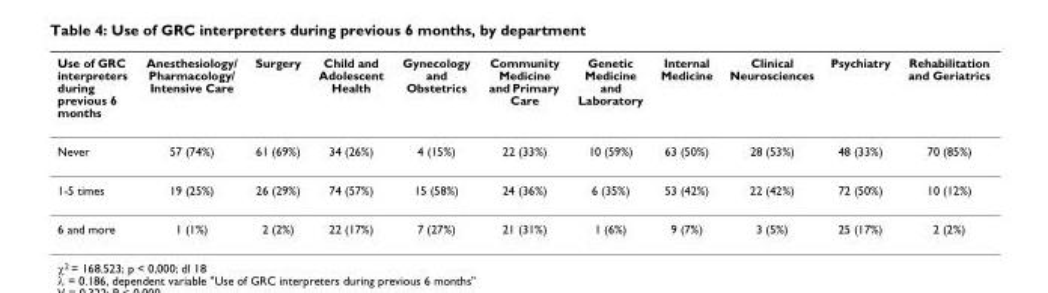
<table><thead><tr><td>Use of GRC interpreters during previous 6 months</td><td>Anesthesiology/ Pharmacology/ Intensive Care</td><td>Surgery</td><td>Child and Adolescent Health</td><td>Gynecology and Obstetrics</td><td>Community Medicine and Primary Care</td><td>Genetic Medicine and Laboratory</td><td>Internal Medicine</td><td>Clinical Neurosciences</td><td>Psychiatry</td><td>Rehabilitation and Geriatrics</td></tr></thead><tbody><tr><td>Never</td><td>57 (74%)</td><td>61 (69%)</td><td>34 (26%)</td><td>4 (15%)</td><td>22 (33%)</td><td>10 (59%)</td><td>63 (50%)</td><td>28 (53%)</td><td>48 (33%)</td><td>70 (85%)</td></tr><tr><td>1-5 times</td><td>19 (25%)</td><td>26 (29%)</td><td>74 (57%)</td><td>15 (58%)</td><td>24 (36%)</td><td>6 (35%)</td><td>53 (42%)</td><td>22 (42%)</td><td>72 (50%)</td><td>10 (12%)</td></tr><tr><td>6 and more</td><td>1 (1%)</td><td>2 (2%)</td><td>22 (17%)</td><td>7 (27%)</td><td>21 (31%)</td><td>1 (6%)</td><td>9 (7%)</td><td>3 (5%)</td><td>25 (17%)</td><td>2 (2%)</td></tr></tbody></table>